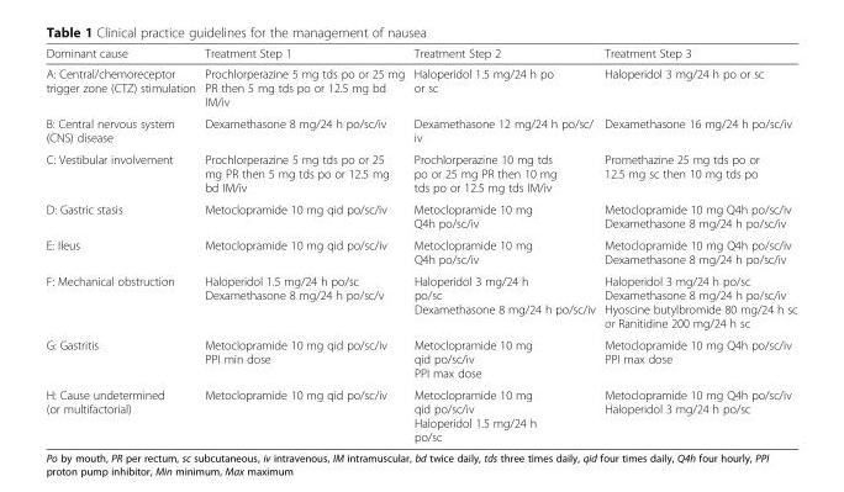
<table><thead><tr><td>Dominant cause</td><td>Treatment Step 1</td><td>Treatment Step 2</td><td>Treatment Step 3</td></tr></thead><tbody><tr><td>A: Central/chemoreceptor trigger zone (CTZ) stimulation</td><td>Prochlorperazine 5 mg tds po or 25 mg PR then 5 mg tds po or 12.5 mg bd IM/iv</td><td>Haloperidol 1.5 mg/24 h po or sc</td><td>Haloperidol 3 mg/24 h po or sc</td></tr><tr><td>B: Central nervous system (CNS) disease</td><td>Dexamethasone 8 mg/24 h po/sc/iv</td><td>Dexamethasone 12 mg/24 h po/sc/ iv</td><td>Dexamethasone 16 mg/24 h po/sc/iv</td></tr><tr><td>C: Vestibular involvement</td><td>Prochlorperazine 5 mg tds po or 25 mg PR then 5 mg tds po or 12.5 mg bd IM/iv</td><td>Prochlorperazine 10 mg tds po or 25 mg PR then 10 mg tds po or 12.5 mg tds IM/iv</td><td>Promethazine 25 mg tds po or 12.5 mg sc then 10 mg tds po</td></tr><tr><td>D: Gastric stasis</td><td>Metoclopramide 10 mg qid po/sc/iv</td><td>Metoclopramide 10 mg Q4h po/sc/iv</td><td>Metoclopramide 10 mg Q4h po/sc/iv Dexamethasone 8 mg/24 h po/sc/iv</td></tr><tr><td>E: Ileus</td><td>Metoclopramide 10 mg qid po/sc/iv</td><td>Metoclopramide 10 mg Q4h po/sc/iv</td><td>Metoclopramide 10 mg Q4h po/sc/iv Dexamethasone 8 mg/24 h po/sc/iv</td></tr><tr><td>F: Mechanical obstruction</td><td>Haloperidol 1.5 mg/24 h po/sc Dexamethasone 8 mg/24 h po/sc/v</td><td>Haloperidol 3 mg/24 h po/sc Dexamethasone 8 mg/24 h po/sc/iv</td><td>Haloperidol 3 mg/24 h po/sc Dexamethasone 8 mg/24 h po/sc/iv Hyoscine butylbromide 80 mg/24 h sc or Ranitidine 200 mg/24 h sc</td></tr><tr><td>G: Gastritis</td><td>Metoclopramide 10 mg qid po/sc/iv PPI min dose</td><td>Metoclopramide 10 mg qid po/sc/iv PPI max dose</td><td>Metoclopramide 10 mg Q4h po/sc/iv PPI max dose</td></tr><tr><td>H: Cause undetermined (or multifactorial)</td><td>Metoclopramide 10 mg qid po/sc/iv</td><td>Metoclopramide 10 mg qid po/sc/iv Haloperidol 1.5 mg/24 h po/sc</td><td>Metoclopramide 10 mg Q4h po/sc/iv Haloperidol 3 mg/24 h po/sc</td></tr></tbody></table>